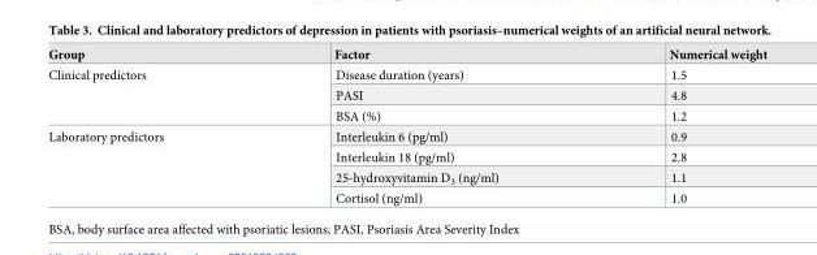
<table><thead><tr><td>Group</td><td>Factor</td><td>Numerical weight</td></tr></thead><tbody><tr><td rowspan="3">Clinical predictors</td><td>Disease duration (years)</td><td>1.5</td></tr><tr><td>PASI</td><td>4.8</td></tr><tr><td>BSA (%)</td><td>1.2</td></tr><tr><td rowspan="4">Laboratory predictors</td><td>Interleukin 6 (pg/ml)</td><td>0.9</td></tr><tr><td>Interleukin 18 (pg/ml)</td><td>2.8</td></tr><tr><td>25-hydroxyvitamin D<sub>3</sub> (ng/ml)</td><td>1.1</td></tr><tr><td>Cortisol (ng/ml)</td><td>1.0</td></tr></tbody></table>